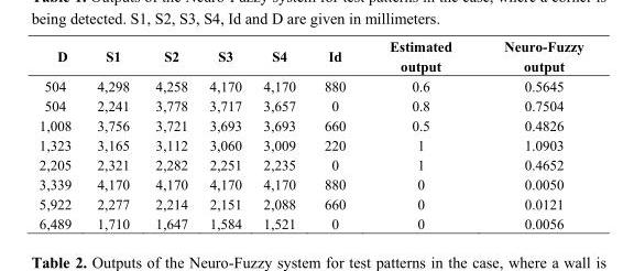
<table><thead><tr><td>D</td><td>S1</td><td>S2</td><td>S3</td><td>S4</td><td>Id</td><td>Estimated output</td><td>Neuro-Fuzzy output</td></tr></thead><tbody><tr><td>504</td><td>4,298</td><td>4,258</td><td>4,170</td><td>4,170</td><td>880</td><td>0.6</td><td>0.5645</td></tr><tr><td>504</td><td>2,241</td><td>3,778</td><td>3,717</td><td>3,657</td><td>0</td><td>0.8</td><td>0.7504</td></tr><tr><td>1,008</td><td>3,756</td><td>3,721</td><td>3,693</td><td>3,693</td><td>660</td><td>0.5</td><td>0.4826</td></tr><tr><td>1,323</td><td>3,165</td><td>3,112</td><td>3,060</td><td>3,009</td><td>220</td><td>1</td><td>1.0903</td></tr><tr><td>2,205</td><td>2,321</td><td>2,282</td><td>2,251</td><td>2,235</td><td>0</td><td>1</td><td>0.4652</td></tr><tr><td>3,339</td><td>4,170</td><td>4,170</td><td>4,170</td><td>4,170</td><td>880</td><td>0</td><td>0.0050</td></tr><tr><td>5,922</td><td>2,277</td><td>2,214</td><td>2,151</td><td>2,088</td><td>660</td><td>0</td><td>0.0121</td></tr><tr><td>6,489</td><td>1,710</td><td>1,647</td><td>1,584</td><td>1,521</td><td>0</td><td>0</td><td>0.0056</td></tr></tbody></table>